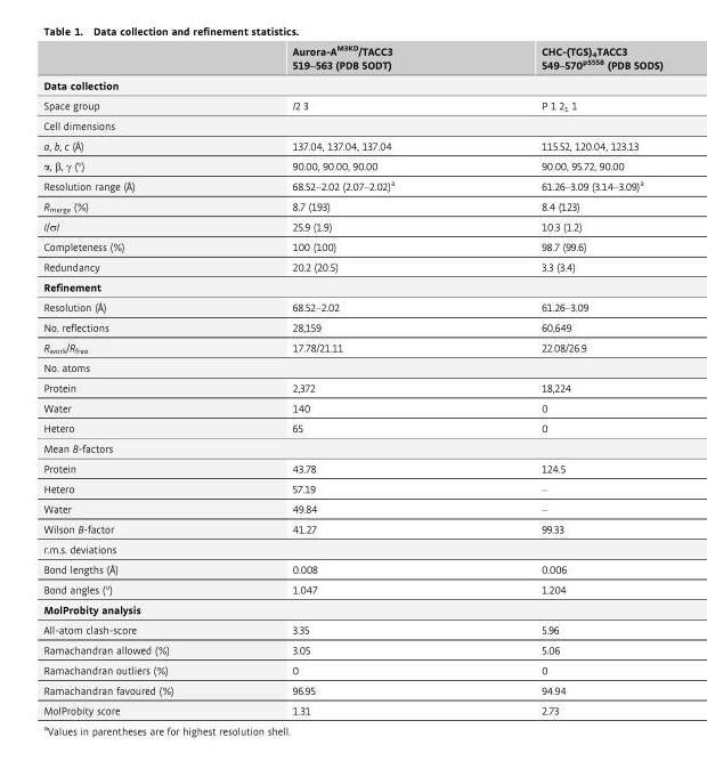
<table><thead><tr><td></td><td>Aurora-A<sup>M3KD</sup>/TACC3 519–563 (PDB 5ODT)</td><td>CHC-(TGS)<sub>4</sub>TACC3 549–570<sup>pS558</sup> (PDB 5ODS)</td></tr></thead><tbody><tr><td colspan="3">Data collection</td></tr><tr><td>Space group</td><td>I2 3</td><td>P 1 2<sub>1</sub> 1</td></tr><tr><td colspan="3">Cell dimensions</td></tr><tr><td>a, b, c (Å)</td><td>137.04, 137.04, 137.04</td><td>115.52, 120.04, 123.13</td></tr><tr><td>α, β, γ (°)</td><td>90.00, 90.00, 90.00</td><td>90.00, 95.72, 90.00</td></tr><tr><td>Resolution range (Å)</td><td>68.52–2.02 (2.07–2.02)<sup>a</sup></td><td>61.26–3.09 (3.14–3.09)<sup>a</sup></td></tr><tr><td>R<sub>merge</sub> (%)</td><td>8.7 (193)</td><td>8.4 (123)</td></tr><tr><td>I/σI</td><td>25.9 (1.9)</td><td>10.3 (1.2)</td></tr><tr><td>Completeness (%)</td><td>100 (100)</td><td>98.7 (99.6)</td></tr><tr><td>Redundancy</td><td>20.2 (20.5)</td><td>3.3 (3.4)</td></tr><tr><td colspan="3">Refinement</td></tr><tr><td>Resolution (Å)</td><td>68.52–2.02</td><td>61.26–3.09</td></tr><tr><td>No. reflections</td><td>28,159</td><td>60,649</td></tr><tr><td>R<sub>work</sub>/R<sub>free</sub></td><td>17.78/21.11</td><td>22.08/26.9</td></tr><tr><td colspan="3">No. atoms</td></tr><tr><td>Protein</td><td>2,372</td><td>18,224</td></tr><tr><td>Water</td><td>140</td><td>0</td></tr><tr><td>Hetero</td><td>65</td><td>0</td></tr><tr><td colspan="3">Mean B-factors</td></tr><tr><td>Protein</td><td>43.78</td><td>124.5</td></tr><tr><td>Hetero</td><td>57.19</td><td>–</td></tr><tr><td>Water</td><td>49.84</td><td>–</td></tr><tr><td>Wilson B-factor</td><td>41.27</td><td>99.33</td></tr><tr><td colspan="3">r.m.s. deviations</td></tr><tr><td>Bond lengths (Å)</td><td>0.008</td><td>0.006</td></tr><tr><td>Bond angles (°)</td><td>1.047</td><td>1.204</td></tr><tr><td colspan="3">MolProbity analysis</td></tr><tr><td>All-atom clash-score</td><td>3.35</td><td>5.96</td></tr><tr><td>Ramachandran allowed (%)</td><td>3.05</td><td>5.06</td></tr><tr><td>Ramachandran outliers (%)</td><td>0</td><td>0</td></tr><tr><td>Ramachandran favoured (%)</td><td>96.95</td><td>94.94</td></tr><tr><td>MolProbity score</td><td>1.31</td><td>2.73</td></tr></tbody></table>